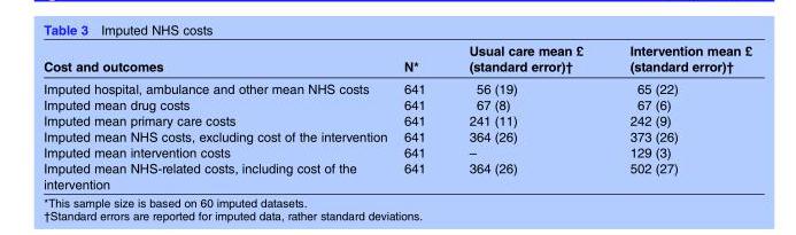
<table><thead><tr><td>Cost and outcomes</td><td>N*</td><td>Usual care mean £ (standard error)†</td><td>Intervention mean £ (standard error)†</td></tr></thead><tbody><tr><td>Imputed hospital, ambulance and other mean NHS costs</td><td>641</td><td>56 (19)</td><td>65 (22)</td></tr><tr><td>Imputed mean drug costs</td><td>641</td><td>67 (8)</td><td>67 (6)</td></tr><tr><td>Imputed mean primary care costs</td><td>641</td><td>241 (11)</td><td>242 (9)</td></tr><tr><td>Imputed mean NHS costs, excluding cost of the intervention</td><td>641</td><td>364 (26)</td><td>373 (26)</td></tr><tr><td>Imputed mean intervention costs</td><td>641</td><td>–</td><td>129 (3)</td></tr><tr><td>Imputed mean NHS-related costs, including cost of the intervention</td><td>641</td><td>364 (26)</td><td>502 (27)</td></tr></tbody></table>